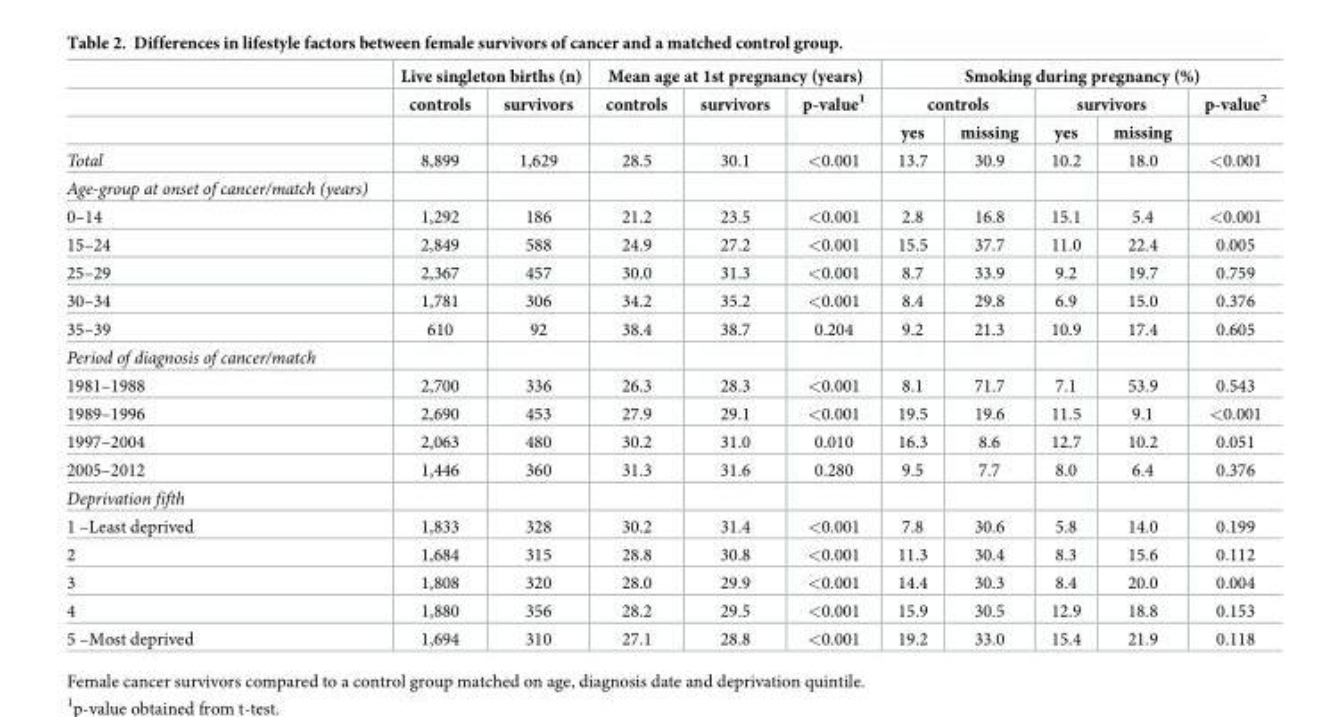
<table><thead><tr><td rowspan="3"></td><td colspan="2">Live singleton births (n)</td><td colspan="3">Mean age at 1st pregnancy (years)</td><td colspan="5">Smoking during pregnancy (%)</td></tr><tr><td rowspan="2">controls</td><td rowspan="2">survivors</td><td rowspan="2">controls</td><td rowspan="2">survivors</td><td rowspan="2">p-value<sup>1</sup></td><td colspan="2">controls</td><td colspan="2">survivors</td><td rowspan="2">p-value<sup>2</sup></td></tr><tr><td>yes</td><td>missing</td><td>yes</td><td>missing</td></tr></thead><tbody><tr><td>Total</td><td>8,899</td><td>1,629</td><td>28.5</td><td>30.1</td><td>&lt;0.001</td><td>13.7</td><td>30.9</td><td>10.2</td><td>18.0</td><td>&lt;0.001</td></tr><tr><td colspan="11">Age-group at onset of cancer/match (years)</td></tr><tr><td>0–14</td><td>1,292</td><td>186</td><td>21.2</td><td>23.5</td><td>&lt;0.001</td><td>2.8</td><td>16.8</td><td>15.1</td><td>5.4</td><td>&lt;0.001</td></tr><tr><td>15–24</td><td>2,849</td><td>588</td><td>24.9</td><td>27.2</td><td>&lt;0.001</td><td>15.5</td><td>37.7</td><td>11.0</td><td>22.4</td><td>0.005</td></tr><tr><td>25–29</td><td>2,367</td><td>457</td><td>30.0</td><td>31.3</td><td>&lt;0.001</td><td>8.7</td><td>33.9</td><td>9.2</td><td>19.7</td><td>0.759</td></tr><tr><td>30–34</td><td>1,781</td><td>306</td><td>34.2</td><td>35.2</td><td>&lt;0.001</td><td>8.4</td><td>29.8</td><td>6.9</td><td>15.0</td><td>0.376</td></tr><tr><td>35–39</td><td>610</td><td>92</td><td>38.4</td><td>38.7</td><td>0.204</td><td>9.2</td><td>21.3</td><td>10.9</td><td>17.4</td><td>0.605</td></tr><tr><td colspan="11">Period of diagnosis of cancer/match</td></tr><tr><td>1981–1988</td><td>2,700</td><td>336</td><td>26.3</td><td>28.3</td><td>&lt;0.001</td><td>8.1</td><td>71.7</td><td>7.1</td><td>53.9</td><td>0.543</td></tr><tr><td>1989–1996</td><td>2,690</td><td>453</td><td>27.9</td><td>29.1</td><td>&lt;0.001</td><td>19.5</td><td>19.6</td><td>11.5</td><td>9.1</td><td>&lt;0.001</td></tr><tr><td>1997–2004</td><td>2,063</td><td>480</td><td>30.2</td><td>31.0</td><td>0.010</td><td>16.3</td><td>8.6</td><td>12.7</td><td>10.2</td><td>0.051</td></tr><tr><td>2005–2012</td><td>1,446</td><td>360</td><td>31.3</td><td>31.6</td><td>0.280</td><td>9.5</td><td>7.7</td><td>8.0</td><td>6.4</td><td>0.376</td></tr><tr><td colspan="11">Deprivation fifth</td></tr><tr><td>1 –Least deprived</td><td>1,833</td><td>328</td><td>30.2</td><td>31.4</td><td>&lt;0.001</td><td>7.8</td><td>30.6</td><td>5.8</td><td>14.0</td><td>0.199</td></tr><tr><td>2</td><td>1,684</td><td>315</td><td>28.8</td><td>30.8</td><td>&lt;0.001</td><td>11.3</td><td>30.4</td><td>8.3</td><td>15.6</td><td>0.112</td></tr><tr><td>3</td><td>1,808</td><td>320</td><td>28.0</td><td>29.9</td><td>&lt;0.001</td><td>14.4</td><td>30.3</td><td>8.4</td><td>20.0</td><td>0.004</td></tr><tr><td>4</td><td>1,880</td><td>356</td><td>28.2</td><td>29.5</td><td>&lt;0.001</td><td>15.9</td><td>30.5</td><td>12.9</td><td>18.8</td><td>0.153</td></tr><tr><td>5 –Most deprived</td><td>1,694</td><td>310</td><td>27.1</td><td>28.8</td><td>&lt;0.001</td><td>19.2</td><td>33.0</td><td>15.4</td><td>21.9</td><td>0.118</td></tr></tbody></table>